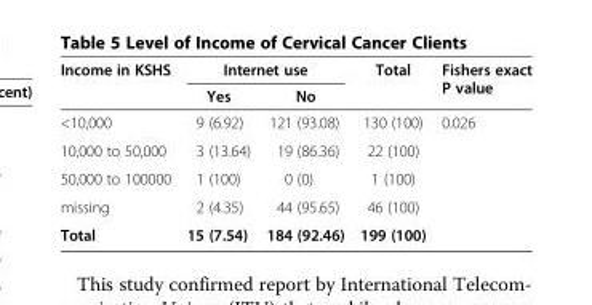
<table><thead><tr><td rowspan="2">Income in KSHS</td><td colspan="2">Internet use</td><td rowspan="2">Total</td><td rowspan="2">Fishers exact P value</td></tr><tr><td>Yes</td><td>No</td></tr></thead><tbody><tr><td>&lt;10,000</td><td>9 (6.92)</td><td>121 (93.08)</td><td>130 (100)</td><td>0.026</td></tr><tr><td>10,000 to 50,000</td><td>3 (13.64)</td><td>19 (86.36)</td><td>22 (100)</td><td></td></tr><tr><td>50,000 to 100000</td><td>1 (100)</td><td>0 (0)</td><td>1 (100)</td><td></td></tr><tr><td>missing</td><td>2 (4.35)</td><td>44 (95.65)</td><td>46 (100)</td><td></td></tr><tr><td>Total</td><td>15 (7.54)</td><td>184 (92.46)</td><td>199 (100)</td><td></td></tr></tbody></table>